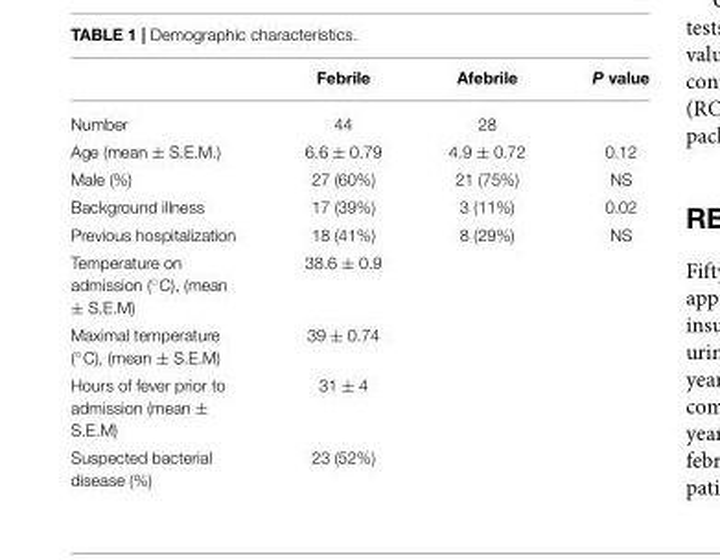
<table><thead><tr><td></td><td>Febrile</td><td>Afebrile</td><td>P value</td></tr></thead><tbody><tr><td>Number</td><td>44</td><td>28</td><td></td></tr><tr><td>Age (mean ± S.E.M.)</td><td>6.6 ± 0.79</td><td>4.9 ± 0.72</td><td>0.12</td></tr><tr><td>Male (%)</td><td>27 (60%)</td><td>21 (75%)</td><td>NS</td></tr><tr><td>Background illness</td><td>17 (39%)</td><td>3 (11%)</td><td>0.02</td></tr><tr><td>Previous hospitalization</td><td>18 (41%)</td><td>8 (29%)</td><td>NS</td></tr><tr><td>Temperature on admission (◦C), (mean ± S.E.M)</td><td>38.6 ± 0.9</td><td></td><td></td></tr><tr><td>Maximal temperature (◦C), (mean ± S.E.M)</td><td>39 ± 0.74</td><td></td><td></td></tr><tr><td>Hours of fever prior to admission (mean ± S.E.M)</td><td>31 ± 4</td><td></td><td></td></tr><tr><td>Suspected bacterial disease (%)</td><td>23 (52%)</td><td></td><td></td></tr></tbody></table>